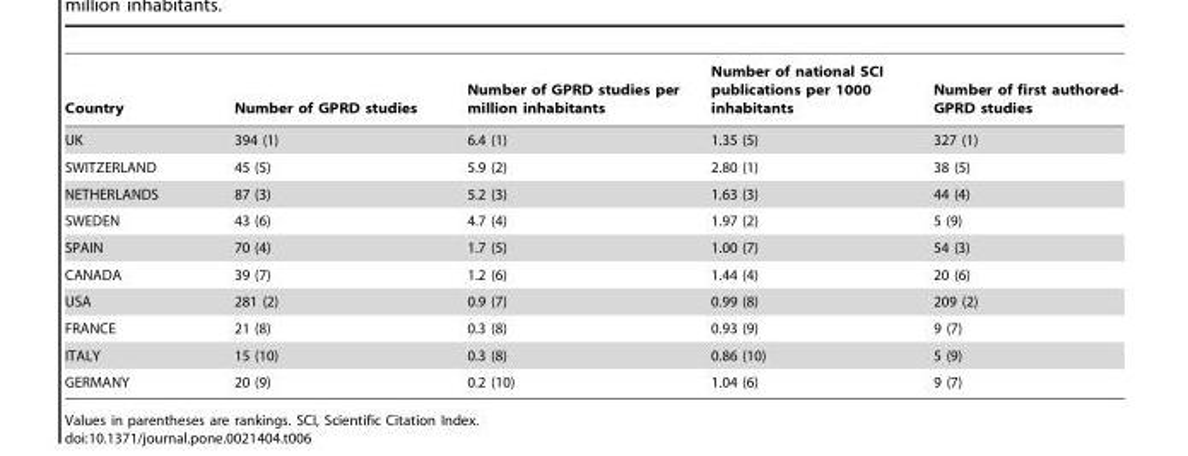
<table><thead><tr><td>Country</td><td>Number of GPRD studies</td><td>Number of GPRD studies per million inhabitants</td><td>Number of national SCI publications per 1000 inhabitants</td><td>Number of first authored- GPRD studies</td></tr></thead><tbody><tr><td>UK</td><td>394 (1)</td><td>6.4 (1)</td><td>1.35 (5)</td><td>327 (1)</td></tr><tr><td>SWITZERLAND</td><td>45 (5)</td><td>5.9 (2)</td><td>2.80 (1)</td><td>38 (5)</td></tr><tr><td>NETHERLANDS</td><td>87 (3)</td><td>5.2 (3)</td><td>1.63 (3)</td><td>44 (4)</td></tr><tr><td>SWEDEN</td><td>43 (6)</td><td>4.7 (4)</td><td>1.97 (2)</td><td>5 (9)</td></tr><tr><td>SPAIN</td><td>70 (4)</td><td>1.7 (5)</td><td>1.00 (7)</td><td>54 (3)</td></tr><tr><td>CANADA</td><td>39 (7)</td><td>1.2 (6)</td><td>1.44 (4)</td><td>20 (6)</td></tr><tr><td>USA</td><td>281 (2)</td><td>0.9 (7)</td><td>0.99 (8)</td><td>209 (2)</td></tr><tr><td>FRANCE</td><td>21 (8)</td><td>0.3 (8)</td><td>0.93 (9)</td><td>9 (7)</td></tr><tr><td>ITALY</td><td>15 (10)</td><td>0.3 (8)</td><td>0.86 (10)</td><td>5 (9)</td></tr><tr><td>GERMANY</td><td>20 (9)</td><td>0.2 (10)</td><td>1.04 (6)</td><td>9 (7)</td></tr></tbody></table>